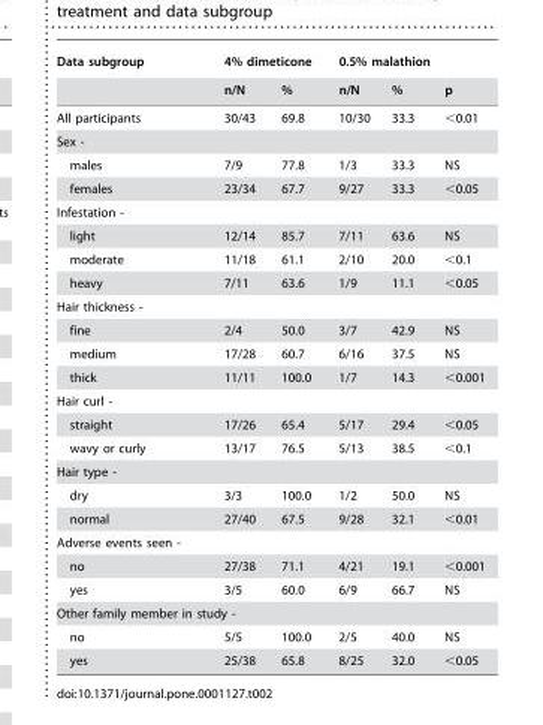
<table><thead><tr><td rowspan="2">Data subgroup</td><td colspan="2">4% dimeticone</td><td colspan="2">0.5% malathion</td><td rowspan="2">p</td></tr><tr><td>n/N</td><td>%</td><td>n/N</td><td>%</td></tr></thead><tbody><tr><td>All participants</td><td>30/43</td><td>69.8</td><td>10/30</td><td>33.3</td><td>&lt;0.01</td></tr><tr><td colspan="6">Sex -</td></tr><tr><td>males</td><td>7/9</td><td>77.8</td><td>1/3</td><td>33.3</td><td>NS</td></tr><tr><td>females</td><td>23/34</td><td>67.7</td><td>9/27</td><td>33.3</td><td>&lt;0.05</td></tr><tr><td colspan="6">Infestation -</td></tr><tr><td>light</td><td>12/14</td><td>85.7</td><td>7/11</td><td>63.6</td><td>NS</td></tr><tr><td>moderate</td><td>11/18</td><td>61.1</td><td>2/10</td><td>20.0</td><td>&lt;0.1</td></tr><tr><td>heavy</td><td>7/11</td><td>63.6</td><td>1/9</td><td>11.1</td><td>&lt;0.05</td></tr><tr><td colspan="6">Hair thickness -</td></tr><tr><td>fine</td><td>2/4</td><td>50.0</td><td>3/7</td><td>42.9</td><td>NS</td></tr><tr><td>medium</td><td>17/28</td><td>60.7</td><td>6/16</td><td>37.5</td><td>NS</td></tr><tr><td>thick</td><td>11/11</td><td>100.0</td><td>1/7</td><td>14.3</td><td>&lt;0.001</td></tr><tr><td colspan="6">Hair curl -</td></tr><tr><td>straight</td><td>17/26</td><td>65.4</td><td>5/17</td><td>29.4</td><td>&lt;0.05</td></tr><tr><td>wavy or curly</td><td>13/17</td><td>76.5</td><td>5/13</td><td>38.5</td><td>&lt;0.1</td></tr><tr><td colspan="6">Hair type -</td></tr><tr><td>dry</td><td>3/3</td><td>100.0</td><td>1/2</td><td>50.0</td><td>NS</td></tr><tr><td>normal</td><td>27/40</td><td>67.5</td><td>9/28</td><td>32.1</td><td>&lt;0.01</td></tr><tr><td colspan="6">Adverse events seen -</td></tr><tr><td>no</td><td>27/38</td><td>71.1</td><td>4/21</td><td>19.1</td><td>&lt;0.001</td></tr><tr><td>yes</td><td>3/5</td><td>60.0</td><td>6/9</td><td>66.7</td><td>NS</td></tr><tr><td colspan="6">Other family member in study -</td></tr><tr><td>no</td><td>5/5</td><td>100.0</td><td>2/5</td><td>40.0</td><td>NS</td></tr><tr><td>yes</td><td>25/38</td><td>65.8</td><td>8/25</td><td>32.0</td><td>&lt;0.05</td></tr></tbody></table>